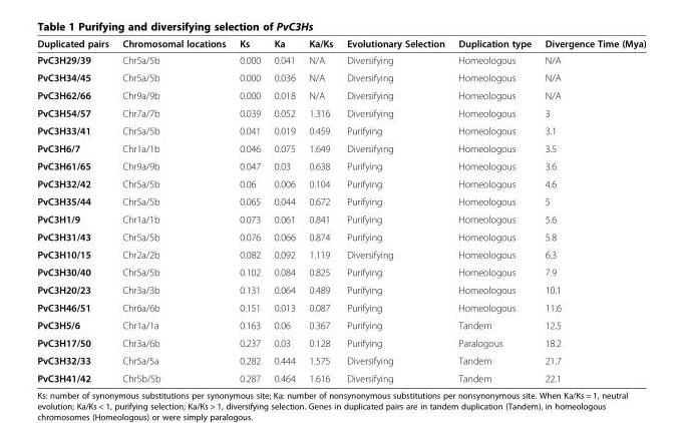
<table><thead><tr><td>Duplicated pairs</td><td>Chromosomal locations</td><td>Ks</td><td>Ka</td><td>Ka/Ks</td><td>Evolutionary Selection</td><td>Duplication type</td><td>Divergence Time (Mya)</td></tr></thead><tbody><tr><td>PvC3H29/39</td><td>Chr5a/5b</td><td>0.000</td><td>0.041</td><td>N/A</td><td>Diversifying</td><td>Homeologous</td><td>N/A</td></tr><tr><td>PvC3H34/45</td><td>Chr5a/5b</td><td>0.000</td><td>0.036</td><td>N/A</td><td>Diversifying</td><td>Homeologous</td><td>N/A</td></tr><tr><td>PvC3H62/66</td><td>Chr9a/9b</td><td>0.000</td><td>0.018</td><td>N/A</td><td>Diversifying</td><td>Homeologous</td><td>N/A</td></tr><tr><td>PvC3H54/57</td><td>Chr7a/7b</td><td>0.039</td><td>0.052</td><td>1.316</td><td>Diversifying</td><td>Homeologous</td><td>3</td></tr><tr><td>PvC3H33/41</td><td>Chr5a/5b</td><td>0.041</td><td>0.019</td><td>0.459</td><td>Purifying</td><td>Homeologous</td><td>3.1</td></tr><tr><td>PvC3H6/7</td><td>Chr1a/1b</td><td>0.046</td><td>0.075</td><td>1.649</td><td>Diversifying</td><td>Homeologous</td><td>3.5</td></tr><tr><td>PvC3H61/65</td><td>Chr9a/9b</td><td>0.047</td><td>0.03</td><td>0.638</td><td>Purifying</td><td>Homeologous</td><td>3.6</td></tr><tr><td>PvC3H32/42</td><td>Chr5a/5b</td><td>0.06</td><td>0.006</td><td>0.104</td><td>Purifying</td><td>Homeologous</td><td>4.6</td></tr><tr><td>PvC3H35/44</td><td>Chr5a/5b</td><td>0.065</td><td>0.044</td><td>0.672</td><td>Purifying</td><td>Homeologous</td><td>5</td></tr><tr><td>PvC3H1/9</td><td>Chr1a/1b</td><td>0.073</td><td>0.061</td><td>0.841</td><td>Purifying</td><td>Homeologous</td><td>5.6</td></tr><tr><td>PvC3H31/43</td><td>Chr5a/5b</td><td>0.076</td><td>0.066</td><td>0.874</td><td>Purifying</td><td>Homeologous</td><td>5.8</td></tr><tr><td>PvC3H10/15</td><td>Chr2a/2b</td><td>0.082</td><td>0.092</td><td>1.119</td><td>Diversifying</td><td>Homeologous</td><td>6.3</td></tr><tr><td>PvC3H30/40</td><td>Chr5a/5b</td><td>0.102</td><td>0.084</td><td>0.825</td><td>Purifying</td><td>Homeologous</td><td>7.9</td></tr><tr><td>PvC3H20/23</td><td>Chr3a/3b</td><td>0.131</td><td>0.064</td><td>0.489</td><td>Purifying</td><td>Homeologous</td><td>10.1</td></tr><tr><td>PvC3H46/51</td><td>Chr6a/6b</td><td>0.151</td><td>0.013</td><td>0.087</td><td>Purifying</td><td>Homeologous</td><td>11.6</td></tr><tr><td>PvC3H5/6</td><td>Chr1a/1a</td><td>0.163</td><td>0.06</td><td>0.367</td><td>Purifying</td><td>Tandem</td><td>12.5</td></tr><tr><td>PvC3H17/50</td><td>Chr3a/6b</td><td>0.237</td><td>0.03</td><td>0.128</td><td>Purifying</td><td>Paralogous</td><td>18.2</td></tr><tr><td>PvC3H32/33</td><td>Chr5a/5a</td><td>0.282</td><td>0.444</td><td>1.575</td><td>Diversifying</td><td>Tandem</td><td>21.7</td></tr><tr><td>PvC3H41/42</td><td>Chr5b/5b</td><td>0.287</td><td>0.464</td><td>1.616</td><td>Diversifying</td><td>Tandem</td><td>22.1</td></tr></tbody></table>